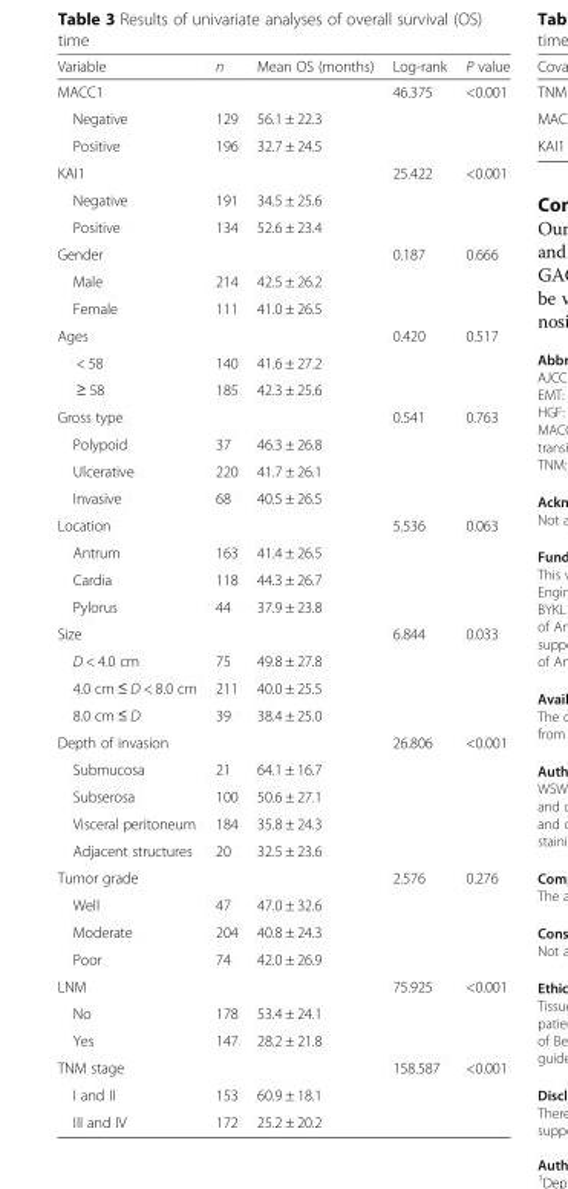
<table><thead><tr><td>Variable</td><td>n</td><td>Mean OS (months)</td><td>Log-rank</td><td>P value</td></tr></thead><tbody><tr><td>MACC1</td><td></td><td></td><td>46.375</td><td>&lt;0.001</td></tr><tr><td>Negative</td><td>129</td><td>56.1 ± 22.3</td><td></td><td></td></tr><tr><td>Positive</td><td>196</td><td>32.7 ± 24.5</td><td></td><td></td></tr><tr><td>KAI1</td><td></td><td></td><td>25.422</td><td>&lt;0.001</td></tr><tr><td>Negative</td><td>191</td><td>34.5 ± 25.6</td><td></td><td></td></tr><tr><td>Positive</td><td>134</td><td>52.6 ± 23.4</td><td></td><td></td></tr><tr><td>Gender</td><td></td><td></td><td>0.187</td><td>0.666</td></tr><tr><td>Male</td><td>214</td><td>42.5 ± 26.2</td><td></td><td></td></tr><tr><td>Female</td><td>111</td><td>41.0 ± 26.5</td><td></td><td></td></tr><tr><td>Ages</td><td></td><td></td><td>0.420</td><td>0.517</td></tr><tr><td>&lt; 58</td><td>140</td><td>41.6 ± 27.2</td><td></td><td></td></tr><tr><td>≥ 58</td><td>185</td><td>42.3 ± 25.6</td><td></td><td></td></tr><tr><td>Gross type</td><td></td><td></td><td>0.541</td><td>0.763</td></tr><tr><td>Polypoid</td><td>37</td><td>46.3 ± 26.8</td><td></td><td></td></tr><tr><td>Ulcerative</td><td>220</td><td>41.7 ± 26.1</td><td></td><td></td></tr><tr><td>Invasive</td><td>68</td><td>40.5 ± 26.5</td><td></td><td></td></tr><tr><td>Location</td><td></td><td></td><td>5.536</td><td>0.063</td></tr><tr><td>Antrum</td><td>163</td><td>41.4 ± 26.5</td><td></td><td></td></tr><tr><td>Cardia</td><td>118</td><td>44.3 ± 26.7</td><td></td><td></td></tr><tr><td>Pylorus</td><td>44</td><td>37.9 ± 23.8</td><td></td><td></td></tr><tr><td>Size</td><td></td><td></td><td>6.844</td><td>0.033</td></tr><tr><td>D &lt; 4.0 cm</td><td>75</td><td>49.8 ± 27.8</td><td></td><td></td></tr><tr><td>4.0 cm ≤ D &lt; 8.0 cm</td><td>211</td><td>40.0 ± 25.5</td><td></td><td></td></tr><tr><td>8.0 cm ≤ D</td><td>39</td><td>38.4 ± 25.0</td><td></td><td></td></tr><tr><td>Depth of invasion</td><td></td><td></td><td>26.806</td><td>&lt;0.001</td></tr><tr><td>Submucosa</td><td>21</td><td>64.1 ± 16.7</td><td></td><td></td></tr><tr><td>Subserosa</td><td>100</td><td>50.6 ± 27.1</td><td></td><td></td></tr><tr><td>Visceral peritoneum</td><td>184</td><td>35.8 ± 24.3</td><td></td><td></td></tr><tr><td>Adjacent structures</td><td>20</td><td>32.5 ± 23.6</td><td></td><td></td></tr><tr><td>Tumor grade</td><td></td><td></td><td>2.576</td><td>0.276</td></tr><tr><td>Well</td><td>47</td><td>47.0 ± 32.6</td><td></td><td></td></tr><tr><td>Moderate</td><td>204</td><td>40.8 ± 24.3</td><td></td><td></td></tr><tr><td>Poor</td><td>74</td><td>42.0 ± 26.9</td><td></td><td></td></tr><tr><td>LNM</td><td></td><td></td><td>75.925</td><td>&lt;0.001</td></tr><tr><td>No</td><td>178</td><td>53.4 ± 24.1</td><td></td><td></td></tr><tr><td>Yes</td><td>147</td><td>28.2 ± 21.8</td><td></td><td></td></tr><tr><td>TNM stage</td><td></td><td></td><td>158.587</td><td>&lt;0.001</td></tr><tr><td>I and II</td><td>153</td><td>60.9 ± 18.1</td><td></td><td></td></tr><tr><td>III and IV</td><td>172</td><td>25.2 ± 20.2</td><td></td><td></td></tr></tbody></table>